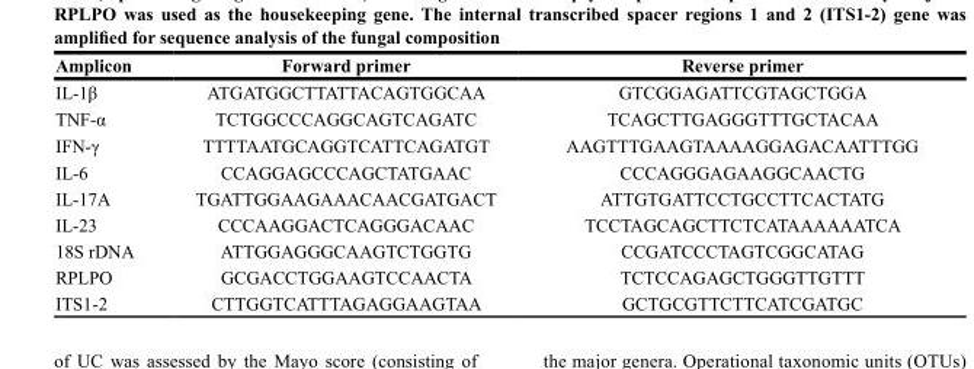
<table><thead><tr><td>Amplicon</td><td>Forward primer</td><td>Reverse primer</td></tr></thead><tbody><tr><td>IL-1β</td><td>ATGATGGCTTATTACAGTGGCAA</td><td>GTCGGAGATTCGTAGCTGGA</td></tr><tr><td>TNF-α</td><td>TCTGGCCCAGGCAGTCAGATC</td><td>TCAGCTTGAGGGTTTGCTACAA</td></tr><tr><td>IFN-γ</td><td>TTTTAATGCAGGTCATTCAGATGT</td><td>AAGTTTGAAGTAAAAGGAGACAATTTGG</td></tr><tr><td>IL-6</td><td>CCAGGAGCCCAGCTATGAAC</td><td>CCCAGGGAGAAGGCAACTG</td></tr><tr><td>IL-17A</td><td>TGATTGGAAGAAACAACGATGACT</td><td>ATTGTGATTCCTGCCTTCACTATG</td></tr><tr><td>IL-23</td><td>CCCAAGGACTCAGGGACAAC</td><td>TCCTAGCAGCTTCTCATAAAAAATCA</td></tr><tr><td>18S rDNA</td><td>ATTGGAGGGCAAGTCTGGTG</td><td>CCGATCCCTAGTCGGCATAG</td></tr><tr><td>RPLPO</td><td>GCGACCTGGAAGTCCAACTA</td><td>TCTCCAGAGCTGGGTTGTTT</td></tr><tr><td>ITS1-2</td><td>CTTGGTCATTTAGAGGAAGTAA</td><td>GCTGCGTTCTTCATCGATGC</td></tr></tbody></table>